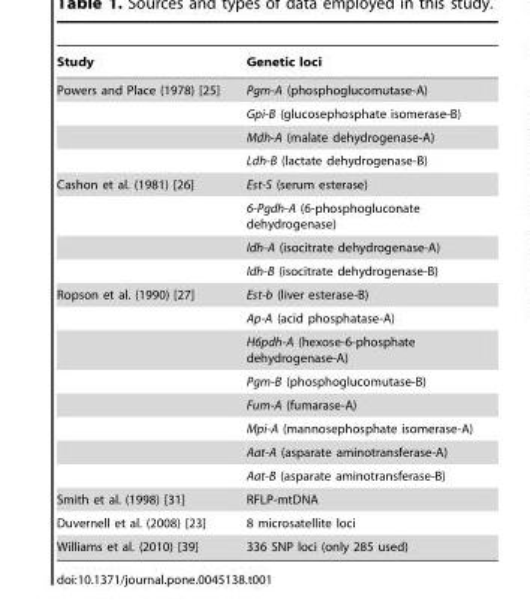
<table><thead><tr><td>Study</td><td>Genetic loci</td></tr></thead><tbody><tr><td rowspan="4">Powers and Place (1978) [25]</td><td>Pgm-A (phosphoglucomutase-A)</td></tr><tr><td>Gpi-B (glucosephosphate isomerase-B)</td></tr><tr><td>Mdh-A (malate dehydrogenase-A)</td></tr><tr><td>Ldh-B (lactate dehydrogenase-B)</td></tr><tr><td rowspan="4">Cashon et al. (1981) [26]</td><td>Est-S (serum esterase)</td></tr><tr><td>6-Pgdh-A (6-phosphogluconate dehydrogenase)</td></tr><tr><td>Idh-A (isocitrate dehydrogenase-A)</td></tr><tr><td>Idh-B (isocitrate dehydrogenase-B)</td></tr><tr><td rowspan="8">Ropson et al. (1990) [27]</td><td>Est-b (liver esterase-B)</td></tr><tr><td>Ap-A (acid phosphatase-A)</td></tr><tr><td>H6pdh-A (hexose-6-phosphate dehydrogenase-A)</td></tr><tr><td>Pgm-B (phosphoglucomutase-B)</td></tr><tr><td>Fum-A (fumarase-A)</td></tr><tr><td>Mpi-A (mannosephosphate isomerase-A)</td></tr><tr><td>Aat-A (asparate aminotransferase-A)</td></tr><tr><td>Aat-B (asparate aminotransferase-B)</td></tr><tr><td>Smith et al. (1998) [31]</td><td>RFLP-mtDNA</td></tr><tr><td>Duvernell et al. (2008) [23]</td><td>8 microsatellite loci</td></tr><tr><td>Williams et al. (2010) [39]</td><td>336 SNP loci (only 285 used)</td></tr></tbody></table>